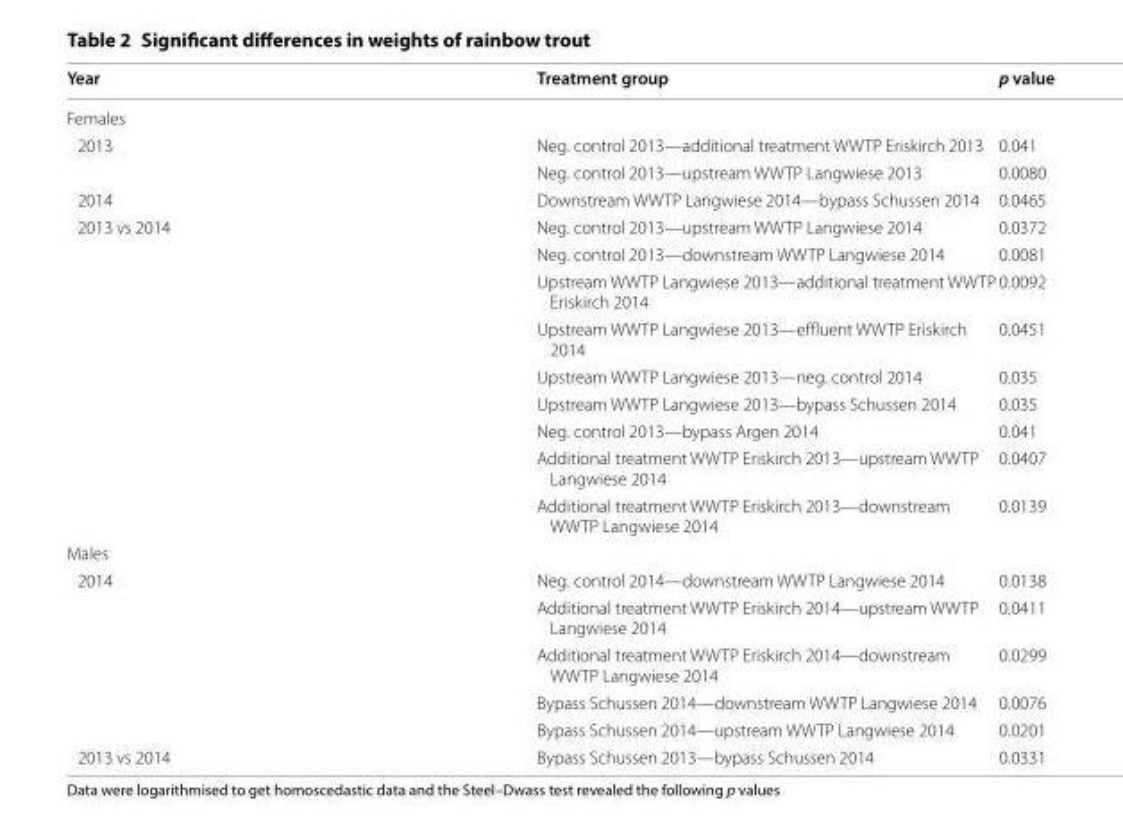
<table><thead><tr><td>Year</td><td>Treatment group</td><td>p value</td></tr></thead><tbody><tr><td colspan="3">Females</td></tr><tr><td rowspan="2">2013</td><td>Neg. control 2013—additional treatment WWTP Eriskirch 2013</td><td>0.041</td></tr><tr><td>Neg. control 2013—upstream WWTP Langwiese 2013</td><td>0.0080</td></tr><tr><td>2014</td><td>Downstream WWTP Langwiese 2014—bypass Schussen 2014</td><td>0.0465</td></tr><tr><td rowspan="9">2013 vs 2014</td><td>Neg. control 2013—upstream WWTP Langwiese 2014</td><td>0.0372</td></tr><tr><td>Neg. control 2013—downstream WWTP Langwiese 2014</td><td>0.0081</td></tr><tr><td>Upstream WWTP Langwiese 2013—additional treatment WWTP Eriskirch 2014</td><td>0.0092</td></tr><tr><td>Upstream WWTP Langwiese 2013—effluent WWTP Eriskirch 2014</td><td>0.0451</td></tr><tr><td>Upstream WWTP Langwiese 2013—neg. control 2014</td><td>0.035</td></tr><tr><td>Upstream WWTP Langwiese 2013—bypass Schussen 2014</td><td>0.035</td></tr><tr><td>Neg. control 2013—bypass Argen 2014</td><td>0.041</td></tr><tr><td>Additional treatment WWTP Eriskirch 2013—upstream WWTP Langwiese 2014</td><td>0.0407</td></tr><tr><td>Additional treatment WWTP Eriskirch 2013—downstream WWTP Langwiese 2014</td><td>0.0139</td></tr><tr><td colspan="3">Males</td></tr><tr><td rowspan="5">2014</td><td>Neg. control 2014—downstream WWTP Langwiese 2014</td><td>0.0138</td></tr><tr><td>Additional treatment WWTP Eriskirch 2014—upstream WWTP Langwiese 2014</td><td>0.0411</td></tr><tr><td>Additional treatment WWTP Eriskirch 2014—downstream WWTP Langwiese 2014</td><td>0.0299</td></tr><tr><td>Bypass Schussen 2014—downstream WWTP Langwiese 2014</td><td>0.0076</td></tr><tr><td>Bypass Schussen 2014—upstream WWTP Langwiese 2014</td><td>0.0201</td></tr><tr><td>2013 vs 2014</td><td>Bypass Schussen 2013—bypass Schussen 2014</td><td>0.0331</td></tr></tbody></table>